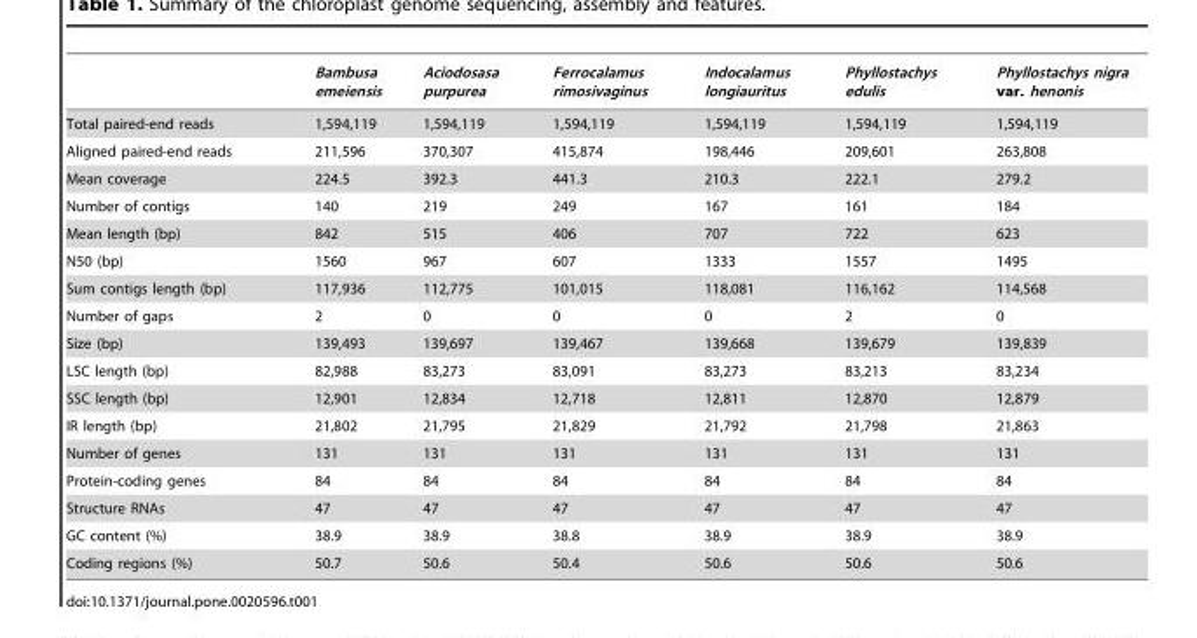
<table><thead><tr><td></td><td>Bambusa emeiensis</td><td>Aciodosasa purpurea</td><td>Ferrocalamus rimosivaginus</td><td>Indocalamus longiauritus</td><td>Phyllostachys edulis</td><td>Phyllostachys nigra var. henonis</td></tr></thead><tbody><tr><td>Total paired-end reads</td><td>1,594,119</td><td>1,594,119</td><td>1,594,119</td><td>1,594,119</td><td>1,594,119</td><td>1,594,119</td></tr><tr><td>Aligned paired-end reads</td><td>211,596</td><td>370,307</td><td>415,874</td><td>198,446</td><td>209,601</td><td>263,808</td></tr><tr><td>Mean coverage</td><td>224.5</td><td>392.3</td><td>441.3</td><td>210.3</td><td>222.1</td><td>279.2</td></tr><tr><td>Number of contigs</td><td>140</td><td>219</td><td>249</td><td>167</td><td>161</td><td>184</td></tr><tr><td>Mean length (bp)</td><td>842</td><td>515</td><td>406</td><td>707</td><td>722</td><td>623</td></tr><tr><td>N50 (bp)</td><td>1560</td><td>967</td><td>607</td><td>1333</td><td>1557</td><td>1495</td></tr><tr><td>Sum contigs length (bp)</td><td>117,936</td><td>112,775</td><td>101,015</td><td>118,081</td><td>116,162</td><td>114,568</td></tr><tr><td>Number of gaps</td><td>2</td><td>0</td><td>0</td><td>0</td><td>2</td><td>0</td></tr><tr><td>Size (bp)</td><td>139,493</td><td>139,697</td><td>139,467</td><td>139,668</td><td>139,679</td><td>139,839</td></tr><tr><td>LSC length (bp)</td><td>82,988</td><td>83,273</td><td>83,091</td><td>83,273</td><td>83,213</td><td>83,234</td></tr><tr><td>SSC length (bp)</td><td>12,901</td><td>12,834</td><td>12,718</td><td>12,811</td><td>12,870</td><td>12,879</td></tr><tr><td>IR length (bp)</td><td>21,802</td><td>21,795</td><td>21,829</td><td>21,792</td><td>21,798</td><td>21,863</td></tr><tr><td>Number of genes</td><td>131</td><td>131</td><td>131</td><td>131</td><td>131</td><td>131</td></tr><tr><td>Protein-coding genes</td><td>84</td><td>84</td><td>84</td><td>84</td><td>84</td><td>84</td></tr><tr><td>Structure RNAs</td><td>47</td><td>47</td><td>47</td><td>47</td><td>47</td><td>47</td></tr><tr><td>GC content (%)</td><td>38.9</td><td>38.9</td><td>38.8</td><td>38.9</td><td>38.9</td><td>38.9</td></tr><tr><td>Coding regions (%)</td><td>50.7</td><td>50.6</td><td>50.4</td><td>50.6</td><td>50.6</td><td>50.6</td></tr></tbody></table>